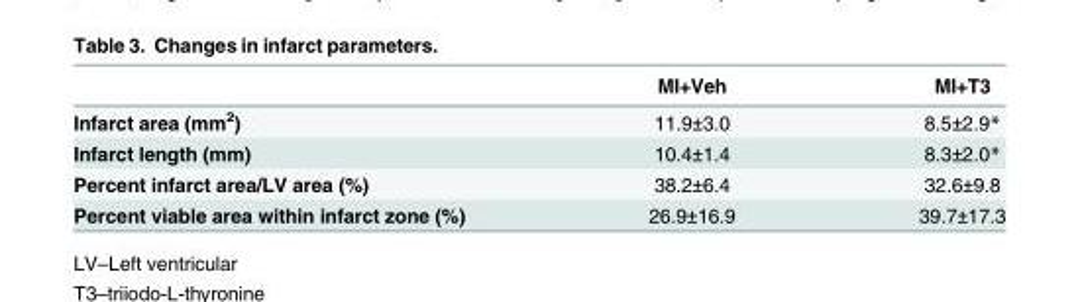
<table><thead><tr><td></td><td>MI+Veh</td><td>MI+T3</td></tr></thead><tbody><tr><td>Infarct area (mm<sup>2</sup>)</td><td>11.9±3.0</td><td>8.5±2.9*</td></tr><tr><td>Infarct length (mm)</td><td>10.4±1.4</td><td>8.3±2.0*</td></tr><tr><td>Percent infarct area/LV area (%)</td><td>38.2±6.4</td><td>32.6±9.8</td></tr><tr><td>Percent viable area within infarct zone (%)</td><td>26.9±16.9</td><td>39.7±17.3</td></tr></tbody></table>